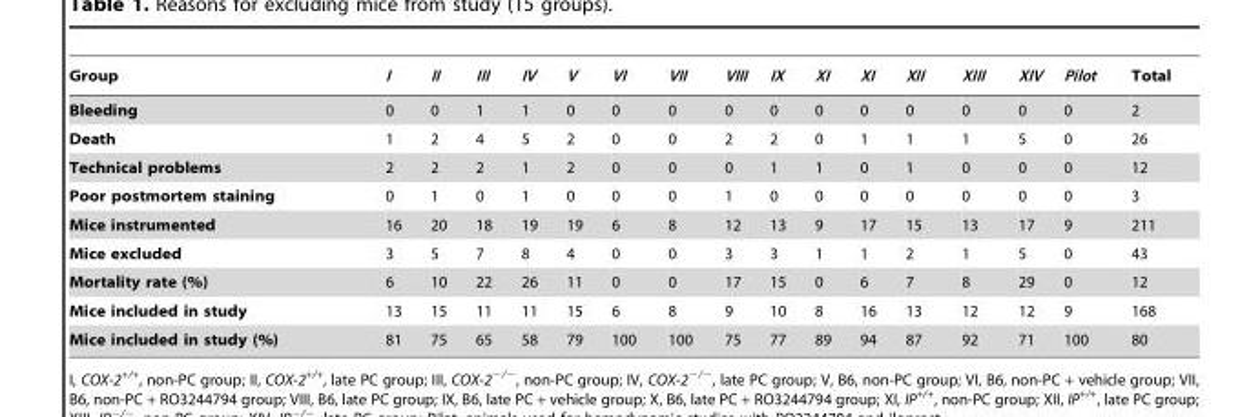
<table><thead><tr><td>Group</td><td>I</td><td>II</td><td>III</td><td>IV</td><td>V</td><td>VI</td><td>VII</td><td>VIII</td><td>IX</td><td>XI</td><td>XI</td><td>XII</td><td>XIII</td><td>XIV</td><td>Pilot</td><td>Total</td></tr></thead><tbody><tr><td>Bleeding</td><td>0</td><td>0</td><td>1</td><td>1</td><td>0</td><td>0</td><td>0</td><td>0</td><td>0</td><td>0</td><td>0</td><td>0</td><td>0</td><td>0</td><td>0</td><td>2</td></tr><tr><td>Death</td><td>1</td><td>2</td><td>4</td><td>5</td><td>2</td><td>0</td><td>0</td><td>2</td><td>2</td><td>0</td><td>1</td><td>1</td><td>1</td><td>5</td><td>0</td><td>26</td></tr><tr><td>Technical problems</td><td>2</td><td>2</td><td>2</td><td>1</td><td>2</td><td>0</td><td>0</td><td>0</td><td>1</td><td>1</td><td>0</td><td>1</td><td>0</td><td>0</td><td>0</td><td>12</td></tr><tr><td>Poor postmortem staining</td><td>0</td><td>1</td><td>0</td><td>1</td><td>0</td><td>0</td><td>0</td><td>1</td><td>0</td><td>0</td><td>0</td><td>0</td><td>0</td><td>0</td><td>0</td><td>3</td></tr><tr><td>Mice instrumented</td><td>16</td><td>20</td><td>18</td><td>19</td><td>19</td><td>6</td><td>8</td><td>12</td><td>13</td><td>9</td><td>17</td><td>15</td><td>13</td><td>17</td><td>9</td><td>211</td></tr><tr><td>Mice excluded</td><td>3</td><td>5</td><td>7</td><td>8</td><td>4</td><td>0</td><td>0</td><td>3</td><td>3</td><td>1</td><td>1</td><td>2</td><td>1</td><td>5</td><td>0</td><td>43</td></tr><tr><td>Mortality rate (%)</td><td>6</td><td>10</td><td>22</td><td>26</td><td>11</td><td>0</td><td>0</td><td>17</td><td>15</td><td>0</td><td>6</td><td>7</td><td>8</td><td>29</td><td>0</td><td>12</td></tr><tr><td>Mice included in study</td><td>13</td><td>15</td><td>11</td><td>11</td><td>15</td><td>6</td><td>8</td><td>9</td><td>10</td><td>8</td><td>16</td><td>13</td><td>12</td><td>12</td><td>9</td><td>168</td></tr><tr><td>Mice included in study (%)</td><td>81</td><td>75</td><td>65</td><td>58</td><td>79</td><td>100</td><td>100</td><td>75</td><td>77</td><td>89</td><td>94</td><td>87</td><td>92</td><td>71</td><td>100</td><td>80</td></tr></tbody></table>